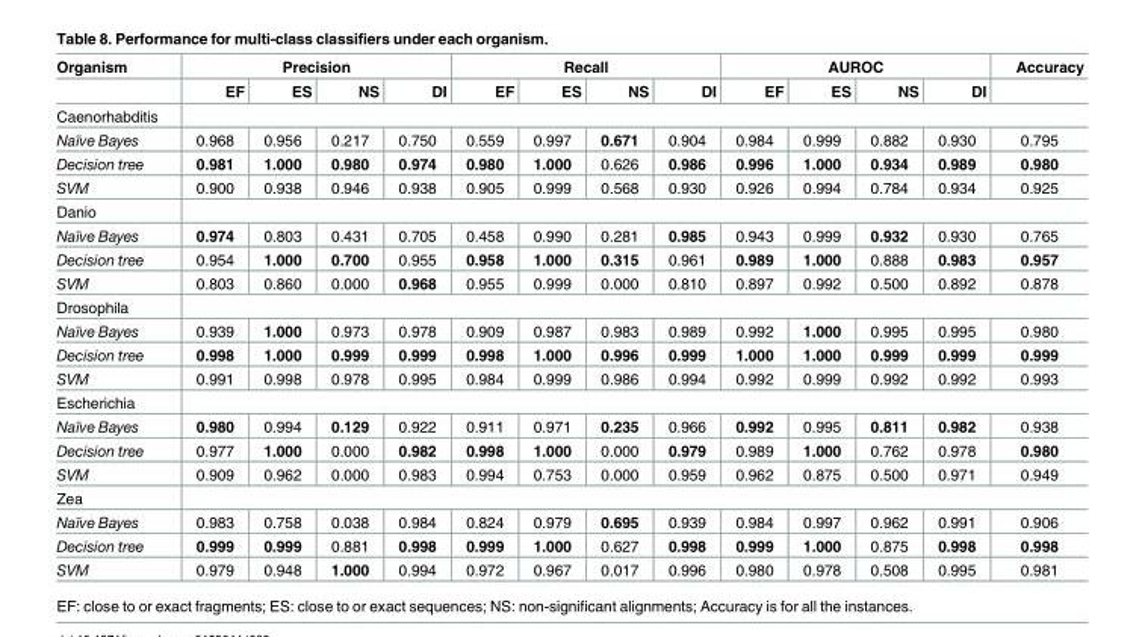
<table><thead><tr><td rowspan="2">Organism</td><td colspan="4">Precision</td><td colspan="4">Recall</td><td colspan="4">AUROC</td><td rowspan="2">Accuracy</td></tr><tr><td>EF</td><td>ES</td><td>NS</td><td>DI</td><td>EF</td><td>ES</td><td>NS</td><td>DI</td><td>EF</td><td>ES</td><td>NS</td><td>DI</td></tr></thead><tbody><tr><td colspan="14">Caenorhabditis</td></tr><tr><td>Naïve Bayes</td><td>0.968</td><td>0.956</td><td>0.217</td><td>0.750</td><td>0.559</td><td>0.997</td><td>0.671</td><td>0.904</td><td>0.984</td><td>0.999</td><td>0.882</td><td>0.930</td><td>0.795</td></tr><tr><td>Decision tree</td><td>0.981</td><td>1.000</td><td>0.980</td><td>0.974</td><td>0.980</td><td>1.000</td><td>0.626</td><td>0.986</td><td>0.996</td><td>1.000</td><td>0.934</td><td>0.989</td><td>0.980</td></tr><tr><td>SVM</td><td>0.900</td><td>0.938</td><td>0.946</td><td>0.938</td><td>0.905</td><td>0.999</td><td>0.568</td><td>0.930</td><td>0.926</td><td>0.994</td><td>0.784</td><td>0.934</td><td>0.925</td></tr><tr><td colspan="14">Danio</td></tr><tr><td>Naïve Bayes</td><td>0.974</td><td>0.803</td><td>0.431</td><td>0.705</td><td>0.458</td><td>0.990</td><td>0.281</td><td>0.985</td><td>0.943</td><td>0.999</td><td>0.932</td><td>0.930</td><td>0.765</td></tr><tr><td>Decision tree</td><td>0.954</td><td>1.000</td><td>0.700</td><td>0.955</td><td>0.958</td><td>1.000</td><td>0.315</td><td>0.961</td><td>0.989</td><td>1.000</td><td>0.888</td><td>0.983</td><td>0.957</td></tr><tr><td>SVM</td><td>0.803</td><td>0.860</td><td>0.000</td><td>0.968</td><td>0.955</td><td>0.999</td><td>0.000</td><td>0.810</td><td>0.897</td><td>0.992</td><td>0.500</td><td>0.892</td><td>0.878</td></tr><tr><td colspan="14">Drosophila</td></tr><tr><td>Naïve Bayes</td><td>0.939</td><td>1.000</td><td>0.973</td><td>0.978</td><td>0.909</td><td>0.987</td><td>0.983</td><td>0.989</td><td>0.992</td><td>1.000</td><td>0.995</td><td>0.995</td><td>0.980</td></tr><tr><td>Decision tree</td><td>0.998</td><td>1.000</td><td>0.999</td><td>0.999</td><td>0.998</td><td>1.000</td><td>0.996</td><td>0.999</td><td>1.000</td><td>1.000</td><td>0.999</td><td>0.999</td><td>0.999</td></tr><tr><td>SVM</td><td>0.991</td><td>0.998</td><td>0.978</td><td>0.995</td><td>0.984</td><td>0.999</td><td>0.986</td><td>0.994</td><td>0.992</td><td>0.999</td><td>0.992</td><td>0.992</td><td>0.993</td></tr><tr><td colspan="14">Escherichia</td></tr><tr><td>Naïve Bayes</td><td>0.980</td><td>0.994</td><td>0.129</td><td>0.922</td><td>0.911</td><td>0.971</td><td>0.235</td><td>0.966</td><td>0.992</td><td>0.995</td><td>0.811</td><td>0.982</td><td>0.938</td></tr><tr><td>Decision tree</td><td>0.977</td><td>1.000</td><td>0.000</td><td>0.982</td><td>0.998</td><td>1.000</td><td>0.000</td><td>0.979</td><td>0.989</td><td>1.000</td><td>0.762</td><td>0.978</td><td>0.980</td></tr><tr><td>SVM</td><td>0.909</td><td>0.962</td><td>0.000</td><td>0.983</td><td>0.994</td><td>0.753</td><td>0.000</td><td>0.959</td><td>0.962</td><td>0.875</td><td>0.500</td><td>0.971</td><td>0.949</td></tr><tr><td colspan="14">Zea</td></tr><tr><td>Naïve Bayes</td><td>0.983</td><td>0.758</td><td>0.038</td><td>0.984</td><td>0.824</td><td>0.979</td><td>0.695</td><td>0.939</td><td>0.984</td><td>0.997</td><td>0.962</td><td>0.991</td><td>0.906</td></tr><tr><td>Decision tree</td><td>0.999</td><td>0.999</td><td>0.881</td><td>0.998</td><td>0.999</td><td>1.000</td><td>0.627</td><td>0.998</td><td>0.999</td><td>1.000</td><td>0.875</td><td>0.998</td><td>0.998</td></tr><tr><td>SVM</td><td>0.979</td><td>0.948</td><td>1.000</td><td>0.994</td><td>0.972</td><td>0.967</td><td>0.017</td><td>0.996</td><td>0.980</td><td>0.978</td><td>0.508</td><td>0.995</td><td>0.981</td></tr></tbody></table>